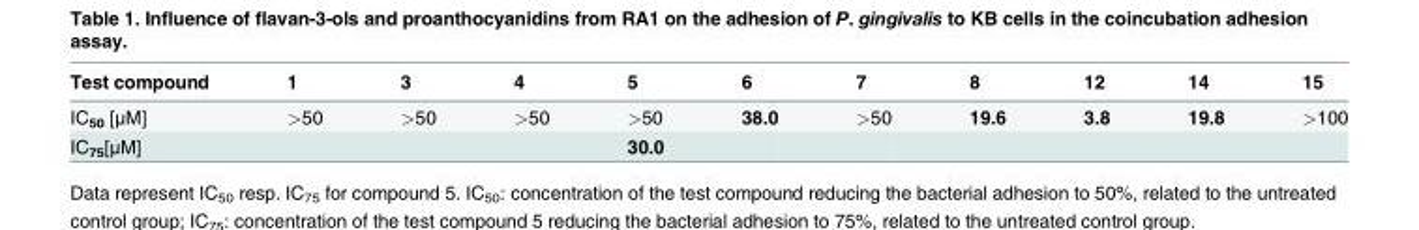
<table><thead><tr><td>Test compound</td><td>1</td><td>3</td><td>4</td><td>5</td><td>6</td><td>7</td><td>8</td><td>12</td><td>14</td><td>15</td></tr></thead><tbody><tr><td>IC<sub>50</sub> [μM]</td><td>&gt;50</td><td>&gt;50</td><td>&gt;50</td><td>&gt;50</td><td>38.0</td><td>&gt;50</td><td>19.6</td><td>3.8</td><td>19.8</td><td>&gt;100</td></tr><tr><td>IC<sub>75</sub>[μM]</td><td></td><td></td><td></td><td>30.0</td><td></td><td></td><td></td><td></td><td></td><td></td></tr></tbody></table>